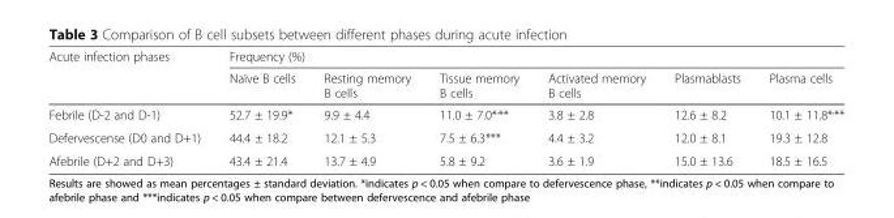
<table><thead><tr><td rowspan="2">Acute infection phases</td><td colspan="6">Frequency (%)</td></tr><tr><td>Naïve B cells</td><td>Resting memory B cells</td><td>Tissue memory B cells</td><td>Activated memory B cells</td><td>Plasmablasts</td><td>Plasma cells</td></tr></thead><tbody><tr><td>Febrile (D-2 and D-1)</td><td>52.7 ± 19.9*</td><td>9.9 ± 4.4</td><td>11.0 ± 7.0*<sup>,</sup>**</td><td>3.8 ± 2.8</td><td>12.6 ± 8.2</td><td>10.1 ± 11.8*<sup>,</sup>**</td></tr><tr><td>Defervescense (D0 and D+1)</td><td>44.4 ± 18.2</td><td>12.1 ± 5.3</td><td>7.5 ± 6.3***</td><td>4.4 ± 3.2</td><td>12.0 ± 8.1</td><td>19.3 ± 12.8</td></tr><tr><td>Afebrile (D+2 and D+3)</td><td>43.4 ± 21.4</td><td>13.7 ± 4.9</td><td>5.8 ± 9.2</td><td>3.6 ± 1.9</td><td>15.0 ± 13.6</td><td>18.5 ± 16.5</td></tr></tbody></table>